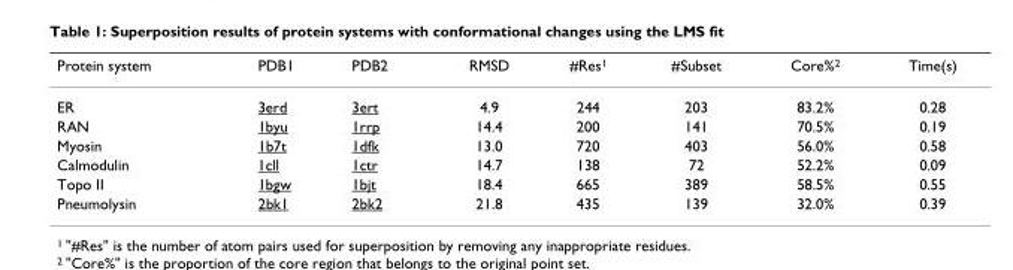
<table><thead><tr><td>Protein system</td><td>PDB1</td><td>PDB2</td><td>RMSD</td><td>#Res<sup>1</sup></td><td>#Subset</td><td>Core%<sup>2</sup></td><td>Time(s)</td></tr></thead><tbody><tr><td>ER</td><td>3erd</td><td>3ert</td><td>4.9</td><td>244</td><td>203</td><td>83.2%</td><td>0.28</td></tr><tr><td>RAN</td><td>1byu</td><td>1rrp</td><td>14.4</td><td>200</td><td>141</td><td>70.5%</td><td>0.19</td></tr><tr><td>Myosin</td><td>1b7t</td><td>1dfk</td><td>13.0</td><td>720</td><td>403</td><td>56.0%</td><td>0.58</td></tr><tr><td>Calmodulin</td><td>1cll</td><td>1ctr</td><td>14.7</td><td>138</td><td>72</td><td>52.2%</td><td>0.09</td></tr><tr><td>Topo II</td><td>1bgw</td><td>1bjt</td><td>18.4</td><td>665</td><td>389</td><td>58.5%</td><td>0.55</td></tr><tr><td>Pneumolysin</td><td>2bk1</td><td>2bk2</td><td>21.8</td><td>435</td><td>139</td><td>32.0%</td><td>0.39</td></tr></tbody></table>